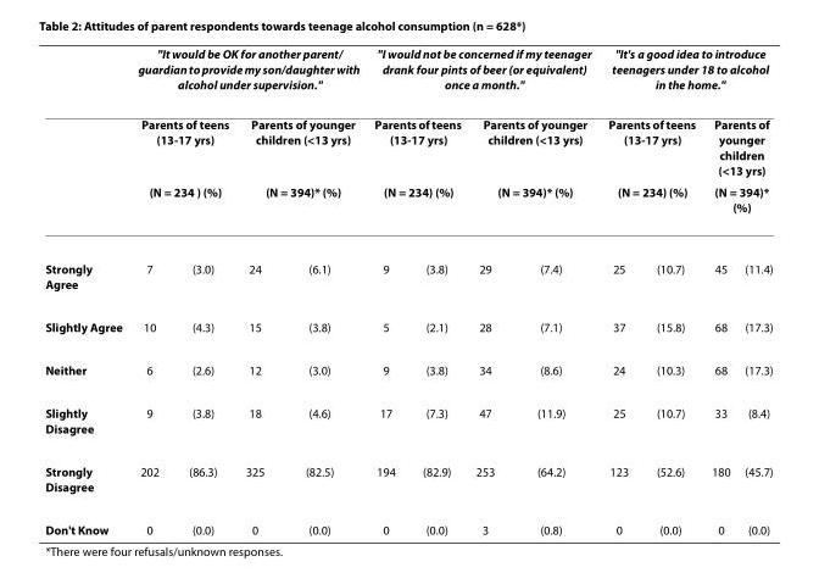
<table><thead><tr><td rowspan="4">Strongly Agree</td><td colspan="4">&quot;It would be OK for another parent/ guardian to provide my son/daughter with alcohol under supervision.&quot;</td><td colspan="4">&quot;I would not be concerned if my teenager drank four pints of beer (or equivalent) once a month.&quot;</td><td colspan="4">&quot;It&#x27;s a good idea to introduce teenagers under 18 to alcohol in the home.&quot;</td></tr><tr><td rowspan="2" colspan="2">Parents of teens (13-17 yrs) (N = 234 ) (%)</td><td rowspan="2" colspan="2">Parents of younger children (&lt;13 yrs) (N = 394)* (%)</td><td rowspan="2" colspan="2">Parents of teens (13-17 yrs) (N = 234) (%)</td><td rowspan="2" colspan="2">Parents of younger children (&lt;13 yrs) (N = 394)* (%)</td><td rowspan="2" colspan="2">Parents of teens (13-17 yrs) (N = 234) (%)</td><td rowspan="2" colspan="2">Parents of younger children (&lt;13 yrs) (N = 394)* (%)</td></tr><tr></tr><tr><td>7</td><td>(3.0)</td><td>24</td><td>(6.1)</td><td>9</td><td>(3.8)</td><td>29</td><td>(7.4)</td><td>25</td><td>(10.7)</td><td>45</td><td>(11.4)</td></tr></thead><tbody><tr><td>Slightly Agree</td><td>10</td><td>(4.3)</td><td>15</td><td>(3.8)</td><td>5</td><td>(2.1)</td><td>28</td><td>(7.1)</td><td>37</td><td>(15.8)</td><td>68</td><td>(17.3)</td></tr><tr><td>Neither</td><td>6</td><td>(2.6)</td><td>12</td><td>(3.0)</td><td>9</td><td>(3.8)</td><td>34</td><td>(8.6)</td><td>24</td><td>(10.3)</td><td>68</td><td>(17.3)</td></tr><tr><td>Slightly Disagree</td><td>9</td><td>(3.8)</td><td>18</td><td>(4.6)</td><td>17</td><td>(7.3)</td><td>47</td><td>(11.9)</td><td>25</td><td>(10.7)</td><td>33</td><td>(8.4)</td></tr><tr><td>Strongly Disagree</td><td>202</td><td>(86.3)</td><td>325</td><td>(82.5)</td><td>194</td><td>(82.9)</td><td>253</td><td>(64.2)</td><td>123</td><td>(52.6)</td><td>180</td><td>(45.7)</td></tr><tr><td>Don&#x27;t Know</td><td>0</td><td>(0.0)</td><td>0</td><td>(0.0)</td><td>0</td><td>(0.0)</td><td>3</td><td>(0.8)</td><td>0</td><td>(0.0)</td><td>0</td><td>(0.0)</td></tr></tbody></table>